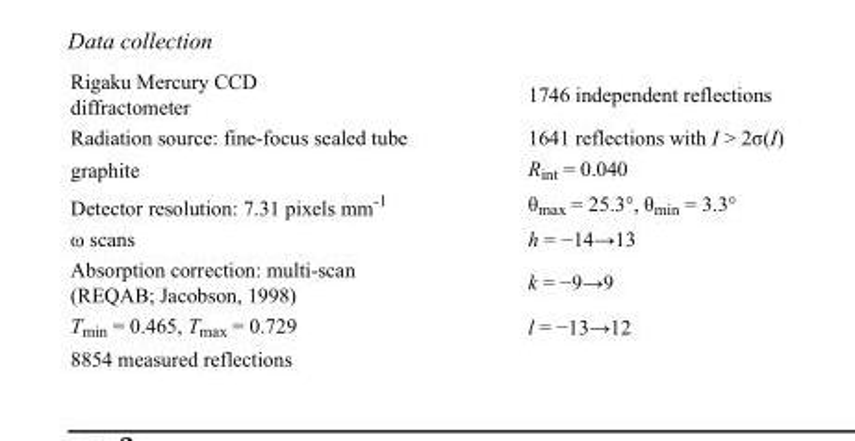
<table><tbody><tr><td>Rigaku Mercury CCD diffractometer</td><td>1746 independent reflections</td></tr><tr><td>Radiation source: fine-focus sealed tube</td><td>1641 reflections with I &gt; 2σ(I)</td></tr><tr><td>graphite</td><td>R<sub>int</sub> = 0.040</td></tr><tr><td>Detector resolution: 7.31 pixels mm<sup>-1</sup></td><td>θ<sub>max</sub> = 25.3°, θ<sub>min</sub> = 3.3°</td></tr><tr><td>ω scans</td><td>h = −14→13</td></tr><tr><td>Absorption correction: multi-scan (REQAB; Jacobson, 1998)</td><td>k = −9→9</td></tr><tr><td>T<sub>min</sub> = 0.465, T<sub>max</sub> = 0.729</td><td>l = −13→12</td></tr><tr><td>8854 measured reflections</td><td></td></tr></tbody></table>